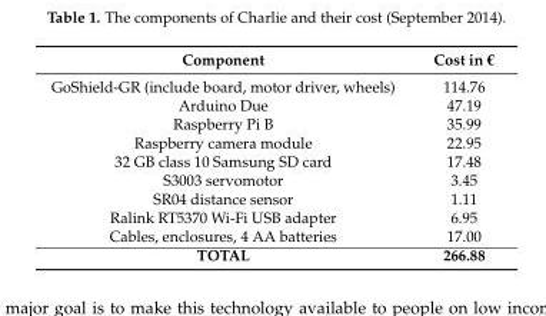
<table><thead><tr><td>Component</td><td>Cost in €</td></tr></thead><tbody><tr><td>GoShield-GR (include board, motor driver, wheels)</td><td>114.76</td></tr><tr><td>Arduino Due</td><td>47.19</td></tr><tr><td>Raspberry Pi B</td><td>35.99</td></tr><tr><td>Raspberry camera module</td><td>22.95</td></tr><tr><td>32 GB class 10 Samsung SD card</td><td>17.48</td></tr><tr><td>S3003 servomotor</td><td>3.45</td></tr><tr><td>SR04 distance sensor</td><td>1.11</td></tr><tr><td>Ralink RT5370 Wi-Fi USB adapter</td><td>6.95</td></tr><tr><td>Cables, enclosures, 4 AA batteries</td><td>17.00</td></tr><tr><td>TOTAL</td><td>266.88</td></tr></tbody></table>